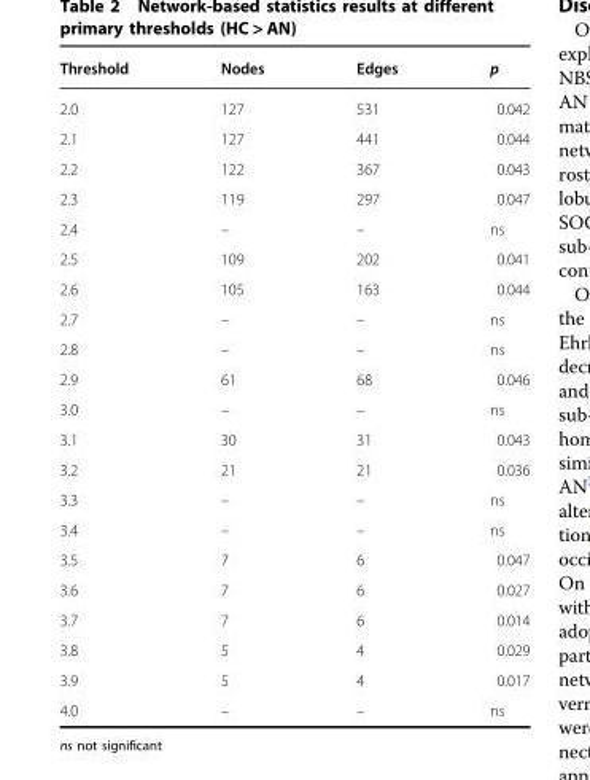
<table><thead><tr><td>Threshold</td><td>Nodes</td><td>Edges</td><td>p</td></tr></thead><tbody><tr><td>2.0</td><td>127</td><td>531</td><td>0.042</td></tr><tr><td>2.1</td><td>127</td><td>441</td><td>0.044</td></tr><tr><td>2.2</td><td>122</td><td>367</td><td>0.043</td></tr><tr><td>2.3</td><td>119</td><td>297</td><td>0.047</td></tr><tr><td>2.4</td><td>–</td><td>–</td><td>ns</td></tr><tr><td>2.5</td><td>109</td><td>202</td><td>0.041</td></tr><tr><td>2.6</td><td>105</td><td>163</td><td>0.044</td></tr><tr><td>2.7</td><td>–</td><td>–</td><td>ns</td></tr><tr><td>2.8</td><td>–</td><td>–</td><td>ns</td></tr><tr><td>2.9</td><td>61</td><td>68</td><td>0.046</td></tr><tr><td>3.0</td><td>–</td><td>–</td><td>ns</td></tr><tr><td>3.1</td><td>30</td><td>31</td><td>0.043</td></tr><tr><td>3.2</td><td>21</td><td>21</td><td>0.036</td></tr><tr><td>3.3</td><td>–</td><td>–</td><td>ns</td></tr><tr><td>3.4</td><td>–</td><td>–</td><td>ns</td></tr><tr><td>3.5</td><td>7</td><td>6</td><td>0.047</td></tr><tr><td>3.6</td><td>7</td><td>6</td><td>0.027</td></tr><tr><td>3.7</td><td>7</td><td>6</td><td>0.014</td></tr><tr><td>3.8</td><td>5</td><td>4</td><td>0.029</td></tr><tr><td>3.9</td><td>5</td><td>4</td><td>0.017</td></tr><tr><td>4.0</td><td>–</td><td>–</td><td>ns</td></tr></tbody></table>